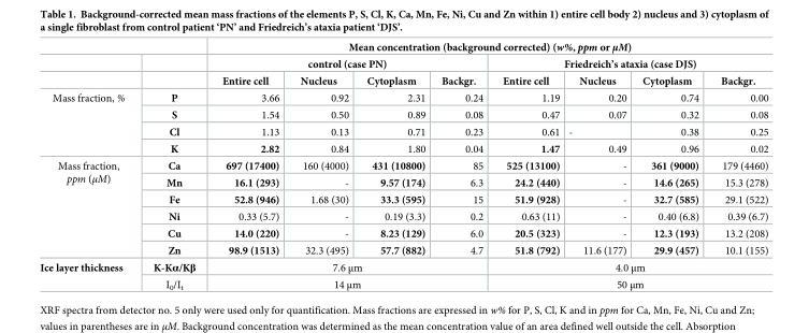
<table><thead><tr><td rowspan="3"></td><td rowspan="3"></td><td colspan="8">Mean concentration (background corrected) (w%, ppm or μM)</td></tr><tr><td colspan="4">control (case PN)</td><td colspan="4">Friedreich’s ataxia (case DJS)</td></tr><tr><td>Entire cell</td><td>Nucleus</td><td>Cytoplasm</td><td>Backgr.</td><td>Entire cell</td><td>Nucleus</td><td>Cytoplasm</td><td>Backgr.</td></tr></thead><tbody><tr><td rowspan="4">Mass fraction, %</td><td>P</td><td>3.66</td><td>0.92</td><td>2.31</td><td>0.24</td><td>1.19</td><td>0.20</td><td>0.74</td><td>0.00</td></tr><tr><td>S</td><td>1.54</td><td>0.50</td><td>0.89</td><td>0.08</td><td>0.47</td><td>0.07</td><td>0.32</td><td>0.08</td></tr><tr><td>Cl</td><td>1.13</td><td>0.13</td><td>0.71</td><td>0.23</td><td>0.61</td><td>-</td><td>0.38</td><td>0.25</td></tr><tr><td>K</td><td>2.82</td><td>0.84</td><td>1.80</td><td>0.04</td><td>1.47</td><td>0.49</td><td>0.96</td><td>0.02</td></tr><tr><td rowspan="6">Mass fraction, ppm (μM)</td><td>Ca</td><td>697 (17400)</td><td>160 (4000)</td><td>431 (10800)</td><td>85</td><td>525 (13100)</td><td>-</td><td>361 (9000)</td><td>179 (4460)</td></tr><tr><td>Mn</td><td>16.1 (293)</td><td>-</td><td>9.57 (174)</td><td>6.3</td><td>24.2 (440)</td><td>-</td><td>14.6 (265)</td><td>15.3 (278)</td></tr><tr><td>Fe</td><td>52.8 (946)</td><td>1.68 (30)</td><td>33.3 (595)</td><td>15</td><td>51.9 (928)</td><td>-</td><td>32.7 (585)</td><td>29.1 (522)</td></tr><tr><td>Ni</td><td>0.33 (5.7)</td><td>-</td><td>0.19 (3.3)</td><td>0.2</td><td>0.63 (11)</td><td>-</td><td>0.40 (6.8)</td><td>0.39 (6.7)</td></tr><tr><td>Cu</td><td>14.0 (220)</td><td>-</td><td>8.23 (129)</td><td>6.0</td><td>20.5 (323)</td><td>-</td><td>12.3 (193)</td><td>13.2 (208)</td></tr><tr><td>Zn</td><td>98.9 (1513)</td><td>32.3 (495)</td><td>57.7 (882)</td><td>4.7</td><td>51.8 (792)</td><td>11.6 (177)</td><td>29.9 (457)</td><td>10.1 (155)</td></tr><tr><td rowspan="2">Ice layer thickness</td><td>K-Kα/Kβ</td><td colspan="4">7.6 μm</td><td colspan="4">4.0 μm</td></tr><tr><td>I<sub>0</sub>/I<sub>t</sub></td><td colspan="4">14 μm</td><td colspan="4">50 μm</td></tr></tbody></table>